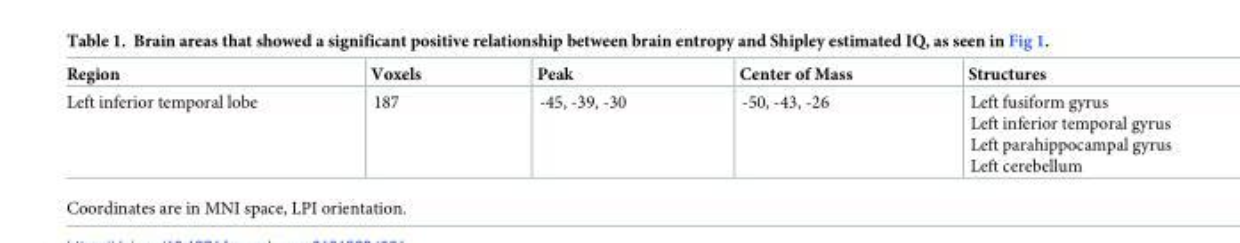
<table><thead><tr><td>Region</td><td>Voxels</td><td>Peak</td><td>Center of Mass</td><td>Structures</td></tr></thead><tbody><tr><td>Left inferior temporal lobe</td><td>187</td><td>-45, -39, -30</td><td>-50, -43, -26</td><td>Left fusiform gyrus Left inferior temporal gyrus Left parahippocampal gyrus Left cerebellum</td></tr></tbody></table>